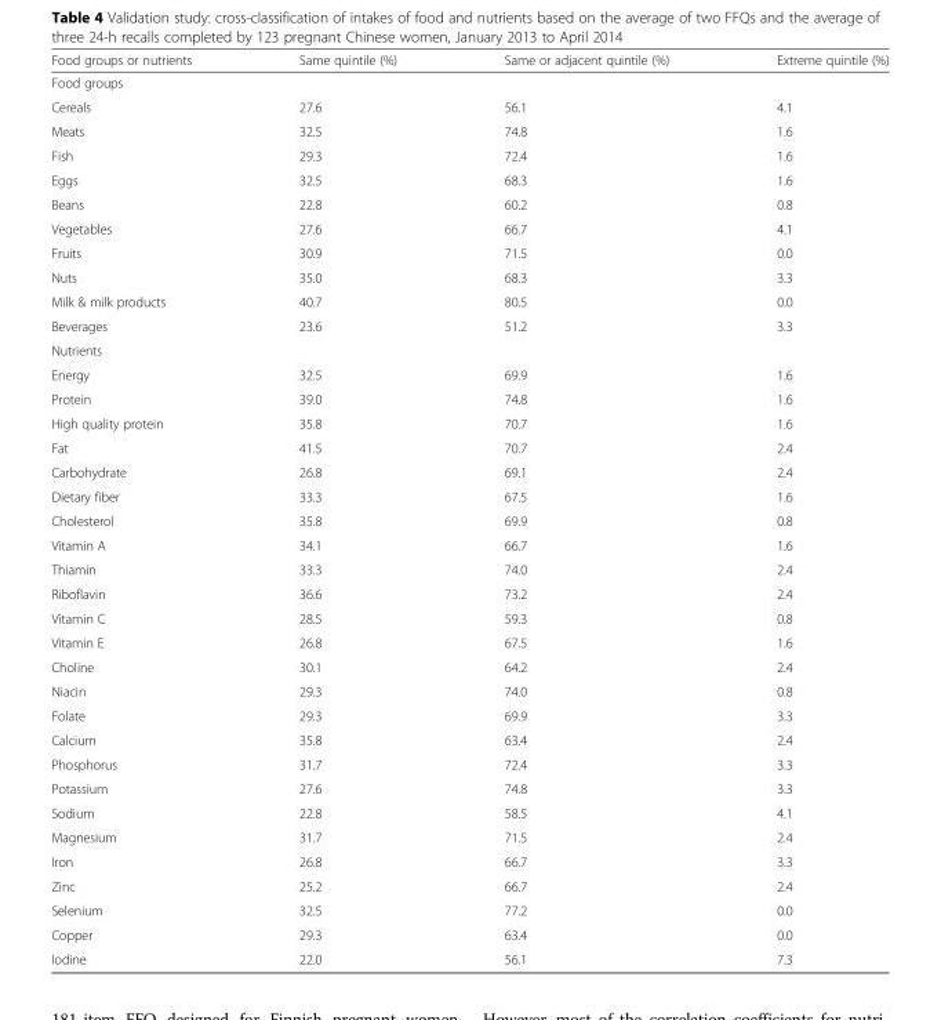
<table><thead><tr><td>Food groups or nutrients</td><td>Same quintile (%)</td><td>Same or adjacent quintile (%)</td><td>Extreme quintile (%)</td></tr></thead><tbody><tr><td colspan="4">Food groups</td></tr><tr><td>Cereals</td><td>27.6</td><td>56.1</td><td>4.1</td></tr><tr><td>Meats</td><td>32.5</td><td>74.8</td><td>1.6</td></tr><tr><td>Fish</td><td>29.3</td><td>72.4</td><td>1.6</td></tr><tr><td>Eggs</td><td>32.5</td><td>68.3</td><td>1.6</td></tr><tr><td>Beans</td><td>22.8</td><td>60.2</td><td>0.8</td></tr><tr><td>Vegetables</td><td>27.6</td><td>66.7</td><td>4.1</td></tr><tr><td>Fruits</td><td>30.9</td><td>71.5</td><td>0.0</td></tr><tr><td>Nuts</td><td>35.0</td><td>68.3</td><td>3.3</td></tr><tr><td>Milk &amp; milk products</td><td>40.7</td><td>80.5</td><td>0.0</td></tr><tr><td>Beverages</td><td>23.6</td><td>51.2</td><td>3.3</td></tr><tr><td colspan="4">Nutrients</td></tr><tr><td>Energy</td><td>32.5</td><td>69.9</td><td>1.6</td></tr><tr><td>Protein</td><td>39.0</td><td>74.8</td><td>1.6</td></tr><tr><td>High quality protein</td><td>35.8</td><td>70.7</td><td>1.6</td></tr><tr><td>Fat</td><td>41.5</td><td>70.7</td><td>2.4</td></tr><tr><td>Carbohydrate</td><td>26.8</td><td>69.1</td><td>2.4</td></tr><tr><td>Dietary fiber</td><td>33.3</td><td>67.5</td><td>1.6</td></tr><tr><td>Cholesterol</td><td>35.8</td><td>69.9</td><td>0.8</td></tr><tr><td>Vitamin A</td><td>34.1</td><td>66.7</td><td>1.6</td></tr><tr><td>Thiamin</td><td>33.3</td><td>74.0</td><td>2.4</td></tr><tr><td>Riboflavin</td><td>36.6</td><td>73.2</td><td>2.4</td></tr><tr><td>Vitamin C</td><td>28.5</td><td>59.3</td><td>0.8</td></tr><tr><td>Vitamin E</td><td>26.8</td><td>67.5</td><td>1.6</td></tr><tr><td>Choline</td><td>30.1</td><td>64.2</td><td>2.4</td></tr><tr><td>Niacin</td><td>29.3</td><td>74.0</td><td>0.8</td></tr><tr><td>Folate</td><td>29.3</td><td>69.9</td><td>3.3</td></tr><tr><td>Calcium</td><td>35.8</td><td>63.4</td><td>2.4</td></tr><tr><td>Phosphorus</td><td>31.7</td><td>72.4</td><td>3.3</td></tr><tr><td>Potassium</td><td>27.6</td><td>74.8</td><td>3.3</td></tr><tr><td>Sodium</td><td>22.8</td><td>58.5</td><td>4.1</td></tr><tr><td>Magnesium</td><td>31.7</td><td>71.5</td><td>2.4</td></tr><tr><td>Iron</td><td>26.8</td><td>66.7</td><td>3.3</td></tr><tr><td>Zinc</td><td>25.2</td><td>66.7</td><td>2.4</td></tr><tr><td>Selenium</td><td>32.5</td><td>77.2</td><td>0.0</td></tr><tr><td>Copper</td><td>29.3</td><td>63.4</td><td>0.0</td></tr><tr><td>Iodine</td><td>22.0</td><td>56.1</td><td>7.3</td></tr></tbody></table>